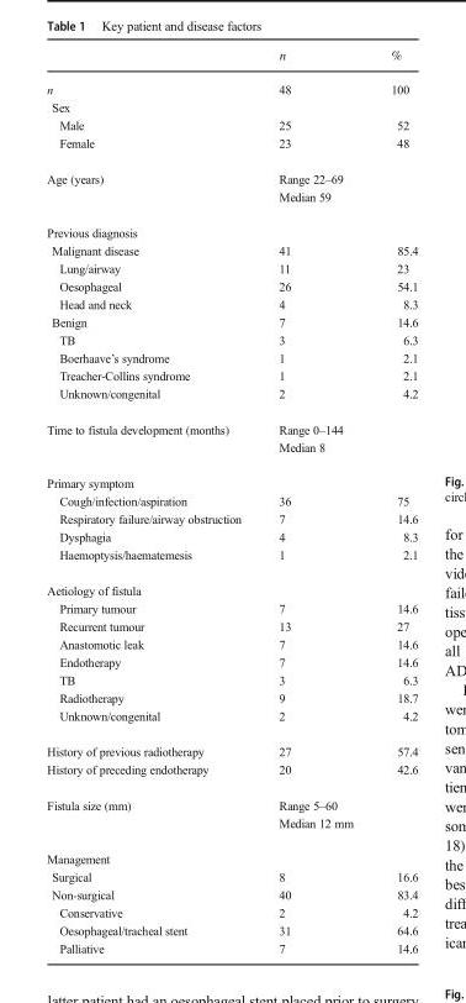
<table><thead><tr><td></td><td>n</td><td>%</td></tr></thead><tbody><tr><td>n</td><td>48</td><td>100</td></tr><tr><td colspan="3">Sex</td></tr><tr><td>Male</td><td>25</td><td>52</td></tr><tr><td>Female</td><td>23</td><td>48</td></tr><tr><td rowspan="2">Age (years)</td><td>Range 22–69</td><td rowspan="2"></td></tr><tr><td>Median 59</td></tr><tr><td colspan="3">Previous diagnosis</td></tr><tr><td>Malignant disease</td><td>41</td><td>85.4</td></tr><tr><td>Lung/airway</td><td>11</td><td>23</td></tr><tr><td>Oesophageal</td><td>26</td><td>54.1</td></tr><tr><td>Head and neck</td><td>4</td><td>8.3</td></tr><tr><td>Benign</td><td>7</td><td>14.6</td></tr><tr><td>TB</td><td>3</td><td>6.3</td></tr><tr><td>Boerhaave’s syndrome</td><td>1</td><td>2.1</td></tr><tr><td>Treacher-Collins syndrome</td><td>1</td><td>2.1</td></tr><tr><td>Unknown/congenital</td><td>2</td><td>4.2</td></tr><tr><td rowspan="2">Time to fistula development (months)</td><td>Range 0–144</td><td rowspan="2"></td></tr><tr><td>Median 8</td></tr><tr><td colspan="3">Primary symptom</td></tr><tr><td>Cough/infection/aspiration</td><td>36</td><td>75</td></tr><tr><td>Respiratory failure/airway obstruction</td><td>7</td><td>14.6</td></tr><tr><td>Dysphagia</td><td>4</td><td>8.3</td></tr><tr><td>Haemoptysis/haematemesis</td><td>1</td><td>2.1</td></tr><tr><td colspan="3">Aetiology of fistula</td></tr><tr><td>Primary tumour</td><td>7</td><td>14.6</td></tr><tr><td>Recurrent tumour</td><td>13</td><td>27</td></tr><tr><td>Anastomotic leak</td><td>7</td><td>14.6</td></tr><tr><td>Endotherapy</td><td>7</td><td>14.6</td></tr><tr><td>TB</td><td>3</td><td>6.3</td></tr><tr><td>Radiotherapy</td><td>9</td><td>18.7</td></tr><tr><td>Unknown/congenital</td><td>2</td><td>4.2</td></tr><tr><td>History of previous radiotherapy</td><td>27</td><td>57.4</td></tr><tr><td>History of preceding endotherapy</td><td>20</td><td>42.6</td></tr><tr><td rowspan="2">Fistula size (mm)</td><td>Range 5–60</td><td rowspan="2"></td></tr><tr><td>Median 12 mm</td></tr><tr><td colspan="3">Management</td></tr><tr><td>Surgical</td><td>8</td><td>16.6</td></tr><tr><td>Non-surgical</td><td>40</td><td>83.4</td></tr><tr><td>Conservative</td><td>2</td><td>4.2</td></tr><tr><td>Oesophageal/tracheal stent</td><td>31</td><td>64.6</td></tr><tr><td>Palliative</td><td>7</td><td>14.6</td></tr></tbody></table>